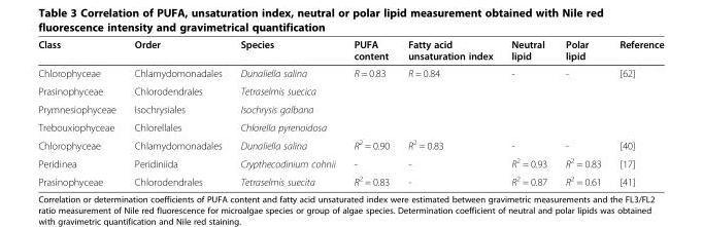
<table><thead><tr><td>Class</td><td>Order</td><td>Species</td><td>PUFA content</td><td>Fatty acid unsaturation index</td><td>Neutral lipid</td><td>Polar lipid</td><td>Reference</td></tr></thead><tbody><tr><td>Chlorophyceae</td><td>Chlamydomonadales</td><td>Dunaliella salina</td><td rowspan="4">R = 0.83</td><td rowspan="4">R = 0.84</td><td rowspan="4">-</td><td rowspan="4">-</td><td rowspan="4">[62]</td></tr><tr><td>Prasinophyceae</td><td>Chlorodendrales</td><td>Tetraselmis suecica</td></tr><tr><td>Prymnesiophyceae</td><td>Isochrysiales</td><td>Isochrysis galbana</td></tr><tr><td>Trebouxiophyceae</td><td>Chlorellales</td><td>Chlorella pyrenoidosa</td></tr><tr><td>Chlorophyceae</td><td>Chlamydomonadales</td><td>Dunaliella salina</td><td>R<sup>2</sup> = 0.90</td><td>R<sup>2</sup> = 0.83</td><td>-</td><td>-</td><td>[40]</td></tr><tr><td>Peridinea</td><td>Peridiniida</td><td>Crypthecodinium cohnii</td><td>-</td><td>-</td><td>R<sup>2</sup> = 0.93</td><td>R<sup>2</sup> = 0.83</td><td>[17]</td></tr><tr><td>Prasinophyceae</td><td>Chlorodendrales</td><td>Tetraselmis suecita</td><td>R<sup>2</sup> = 0.83</td><td>-</td><td>R<sup>2</sup> = 0.87</td><td>R<sup>2</sup> = 0.61</td><td>[41]</td></tr></tbody></table>